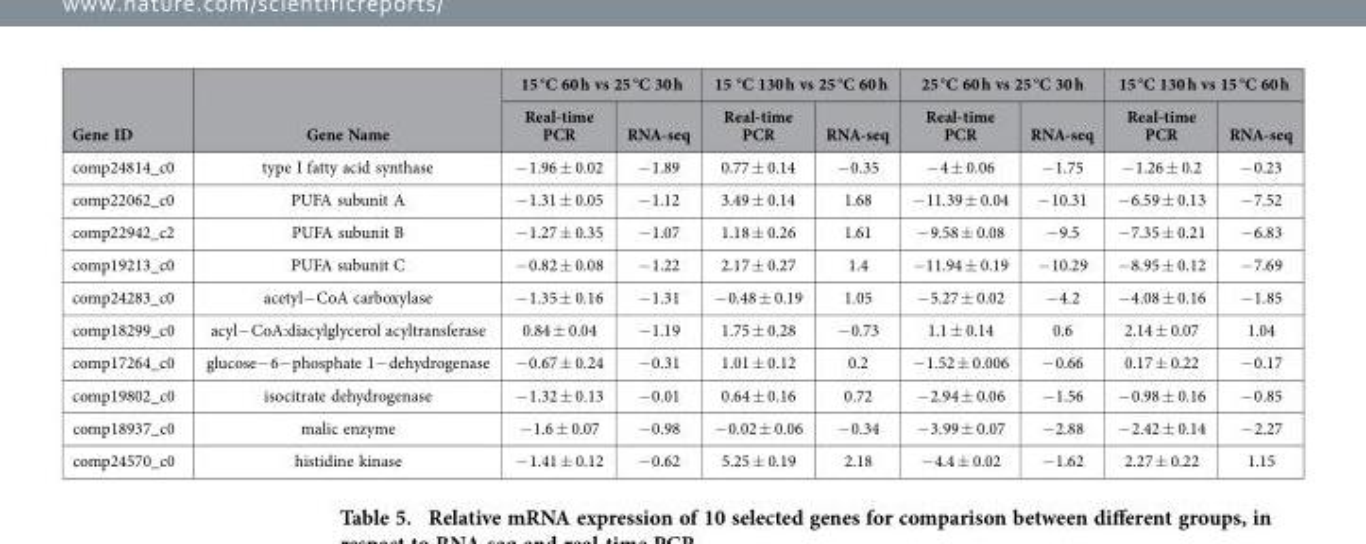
<table><thead><tr><td rowspan="2">Gene ID</td><td rowspan="2">Gene Name</td><td colspan="2">15 °C 60 h vs 25 °C 30 h</td><td colspan="2">15 °C 130 h vs 25 °C 60 h</td><td colspan="2">25 °C 60 h vs 25 °C 30 h</td><td colspan="2">15 °C 130 h vs 15 °C 60 h</td></tr><tr><td>Real-time PCR</td><td>RNA-seq</td><td>Real-time PCR</td><td>RNA-seq</td><td>Real-time PCR</td><td>RNA-seq</td><td>Real-time PCR</td><td>RNA-seq</td></tr></thead><tbody><tr><td>comp24814_c0</td><td>type I fatty acid synthase</td><td>− 1.96 ± 0.02</td><td>− 1.89</td><td>0.77 ± 0.14</td><td>− 0.35</td><td>− 4 ± 0.06</td><td>− 1.75</td><td>− 1.26 ± 0.2</td><td>− 0.23</td></tr><tr><td>comp22062_c0</td><td>PUFA subunit A</td><td>− 1.31 ± 0.05</td><td>− 1.12</td><td>3.49 ± 0.14</td><td>1.68</td><td>− 11.39 ± 0.04</td><td>− 10.31</td><td>− 6.59 ± 0.13</td><td>− 7.52</td></tr><tr><td>comp22942_c2</td><td>PUFA subunit B</td><td>− 1.27 ± 0.35</td><td>− 1.07</td><td>1.18 ± 0.26</td><td>1.61</td><td>− 9.58 ± 0.08</td><td>− 9.5</td><td>− 7.35 ± 0.21</td><td>− 6.83</td></tr><tr><td>comp19213_c0</td><td>PUFA subunit C</td><td>− 0.82 ± 0.08</td><td>− 1.22</td><td>2.17 ± 0.27</td><td>1.4</td><td>−11.94 ± 0.19</td><td>− 10.29</td><td>− 8.95 ± 0.12</td><td>− 7.69</td></tr><tr><td>comp24283_c0</td><td>acetyl− CoA carboxylase</td><td>− 1.35 ± 0.16</td><td>− 1.31</td><td>− 0.48 ± 0.19</td><td>1.05</td><td>− 5.27 ± 0.02</td><td>− 4.2</td><td>− 4.08 ± 0.16</td><td>− 1.85</td></tr><tr><td>comp18299_c0</td><td>acyl− CoA:diacylglycerol acyltransferase</td><td>0.84 ± 0.04</td><td>− 1.19</td><td>1.75 ± 0.28</td><td>− 0.73</td><td>1.1 ± 0.14</td><td>0.6</td><td>2.14 ± 0.07</td><td>1.04</td></tr><tr><td>comp17264_c0</td><td>glucose− 6− phosphate 1− dehydrogenase</td><td>− 0.67 ± 0.24</td><td>− 0.31</td><td>1.01 ± 0.12</td><td>0.2</td><td>− 1.52 ± 0.006</td><td>− 0.66</td><td>0.17 ± 0.22</td><td>− 0.17</td></tr><tr><td>comp19802_c0</td><td>isocitrate dehydrogenase</td><td>− 1.32 ± 0.13</td><td>− 0.01</td><td>0.64 ± 0.16</td><td>0.72</td><td>− 2.94 ± 0.06</td><td>− 1.56</td><td>− 0.98 ± 0.16</td><td>− 0.85</td></tr><tr><td>comp18937_c0</td><td>malic enzyme</td><td>− 1.6 ± 0.07</td><td>− 0.98</td><td>− 0.02 ± 0.06</td><td>− 0.34</td><td>− 3.99 ± 0.07</td><td>− 2.88</td><td>− 2.42 ± 0.14</td><td>− 2.27</td></tr><tr><td>comp24570_c0</td><td>histidine kinase</td><td>− 1.41 ± 0.12</td><td>− 0.62</td><td>5.25 ± 0.19</td><td>2.18</td><td>− 4.4 ± 0.02</td><td>− 1.62</td><td>2.27 ± 0.22</td><td>1.15</td></tr></tbody></table>